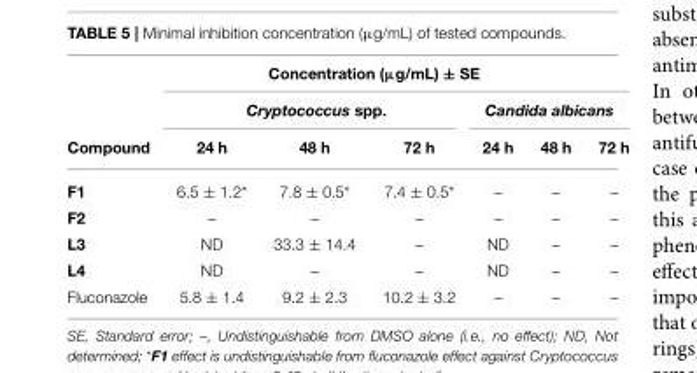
<table><thead><tr><td rowspan="3">Compound</td><td colspan="6">Concentration (µg/mL) ± SE</td></tr><tr><td colspan="3">Cryptococcus spp.</td><td colspan="3">Candida albicans</td></tr><tr><td>24 h</td><td>48 h</td><td>72 h</td><td>24 h</td><td>48 h</td><td>72 h</td></tr></thead><tbody><tr><td>F1</td><td>6.5 ± 1.2*</td><td>7.8 ± 0.5*</td><td>7.4 ± 0.5*</td><td>–</td><td>–</td><td>–</td></tr><tr><td>F2</td><td>–</td><td>–</td><td>–</td><td>–</td><td>–</td><td>–</td></tr><tr><td>L3</td><td>ND</td><td>33.3 ± 14.4</td><td>–</td><td>ND</td><td>–</td><td>–</td></tr><tr><td>L4</td><td>ND</td><td>–</td><td>–</td><td>ND</td><td>–</td><td>–</td></tr><tr><td>Fluconazole</td><td>5.8 ± 1.4</td><td>9.2 ± 2.3</td><td>10.2 ± 3.2</td><td>–</td><td>–</td><td>–</td></tr></tbody></table>